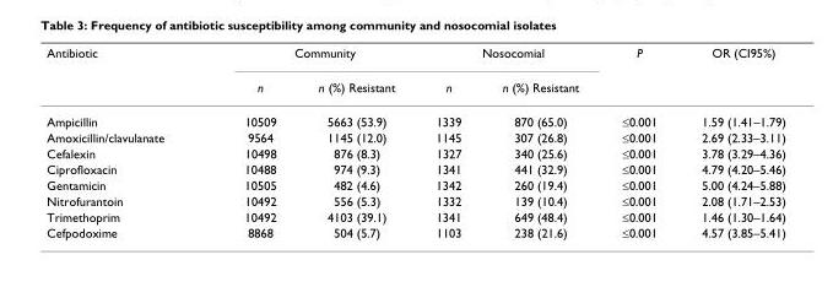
<table><thead><tr><td rowspan="2">Antibiotic</td><td colspan="2">Community</td><td colspan="2">Nosocomial</td><td rowspan="2">P</td><td rowspan="2">OR (CI95%)</td></tr><tr><td>n</td><td>n (%) Resistant</td><td>n</td><td>n (%) Resistant</td></tr></thead><tbody><tr><td>Ampicillin</td><td>10509</td><td>5663 (53.9)</td><td>1339</td><td>870 (65.0)</td><td>≤0.001</td><td>1.59 (1.41–1.79)</td></tr><tr><td>Amoxicillin/clavulanate</td><td>9564</td><td>1145 (12.0)</td><td>1145</td><td>307 (26.8)</td><td>≤0.001</td><td>2.69 (2.33–3.11)</td></tr><tr><td>Cefalexin</td><td>10498</td><td>876 (8.3)</td><td>1327</td><td>340 (25.6)</td><td>≤0.001</td><td>3.78 (3.29–4.36)</td></tr><tr><td>Ciprofloxacin</td><td>10488</td><td>974 (9.3)</td><td>1341</td><td>441 (32.9)</td><td>≤0.001</td><td>4.79 (4.20–5.46)</td></tr><tr><td>Gentamicin</td><td>10505</td><td>482 (4.6)</td><td>1342</td><td>260 (19.4)</td><td>≤0.001</td><td>5.00 (4.24–5.88)</td></tr><tr><td>Nitrofurantoin</td><td>10492</td><td>556 (5.3)</td><td>1332</td><td>139 (10.4)</td><td>≤0.001</td><td>2.08 (1.71–2.53)</td></tr><tr><td>Trimethoprim</td><td>10492</td><td>4103 (39.1)</td><td>1341</td><td>649 (48.4)</td><td>≤0.001</td><td>1.46 (1.30–1.64)</td></tr><tr><td>Cefpodoxime</td><td>8868</td><td>504 (5.7)</td><td>1103</td><td>238 (21.6)</td><td>≤0.001</td><td>4.57 (3.85–5.41)</td></tr></tbody></table>